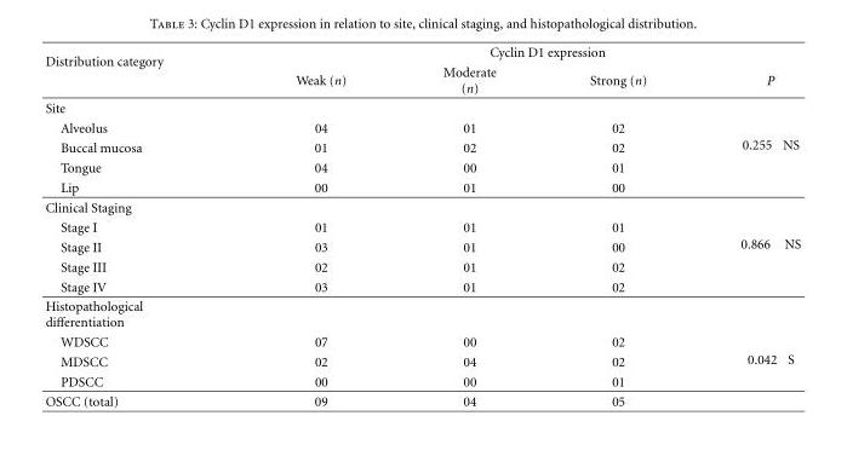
<table><thead><tr><td rowspan="2">Distribution category</td><td colspan="4">Cyclin D1 expression</td></tr><tr><td>Weak (n)</td><td>Moderate (n)</td><td>Strong (n)</td><td>P</td></tr></thead><tbody><tr><td colspan="4">Site</td><td rowspan="5">0.255 NS</td></tr><tr><td>Alveolus</td><td>04</td><td>01</td><td>02</td></tr><tr><td>Buccal mucosa</td><td>01</td><td>02</td><td>02</td></tr><tr><td>Tongue</td><td>04</td><td>00</td><td>01</td></tr><tr><td>Lip</td><td>00</td><td>01</td><td>00</td></tr><tr><td colspan="4">Clinical Staging</td><td rowspan="5">0.866 NS</td></tr><tr><td>Stage I</td><td>01</td><td>01</td><td>01</td></tr><tr><td>Stage II</td><td>03</td><td>01</td><td>00</td></tr><tr><td>Stage III</td><td>02</td><td>01</td><td>02</td></tr><tr><td>Stage IV</td><td>03</td><td>01</td><td>02</td></tr><tr><td colspan="5">Histopathological differentiation</td></tr><tr><td>WDSCC</td><td>07</td><td>00</td><td>02</td><td rowspan="3">0.042 S</td></tr><tr><td>MDSCC</td><td>02</td><td>04</td><td>02</td></tr><tr><td>PDSCC</td><td>00</td><td>00</td><td>01</td></tr><tr><td>OSCC (total)</td><td>09</td><td>04</td><td>05</td><td></td></tr></tbody></table>